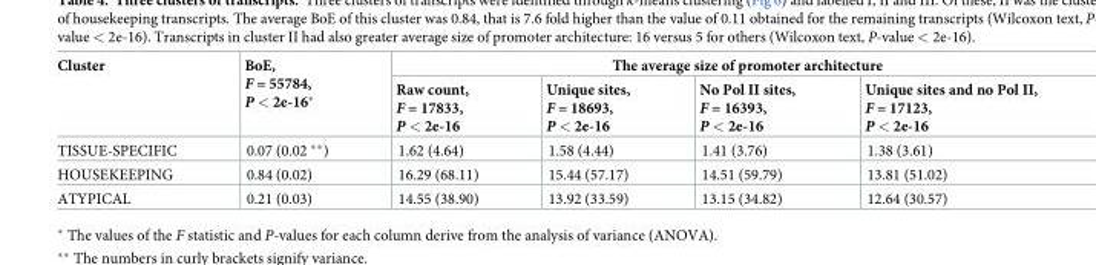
<table><thead><tr><td rowspan="2">Cluster</td><td rowspan="2">BoE, F = 55784, P &lt; 2e-16*</td><td colspan="4">The average size of promoter architecture</td></tr><tr><td>Raw count, F = 17833, P &lt; 2e-16</td><td>Unique sites, F = 18693, P &lt; 2e-16</td><td>No Pol II sites, F = 16393, P &lt; 2e-16</td><td>Unique sites and no Pol II, F = 17123, P &lt; 2e-16</td></tr></thead><tbody><tr><td>TISSUE-SPECIFIC</td><td>0.07 (0.02 **)</td><td>1.62 (4.64)</td><td>1.58 (4.44)</td><td>1.41 (3.76)</td><td>1.38 (3.61)</td></tr><tr><td>HOUSEKEEPING</td><td>0.84 (0.02)</td><td>16.29 (68.11)</td><td>15.44 (57.17)</td><td>14.51 (59.79)</td><td>13.81 (51.02)</td></tr><tr><td>ATYPICAL</td><td>0.21 (0.03)</td><td>14.55 (38.90)</td><td>13.92 (33.59)</td><td>13.15 (34.82)</td><td>12.64 (30.57)</td></tr></tbody></table>